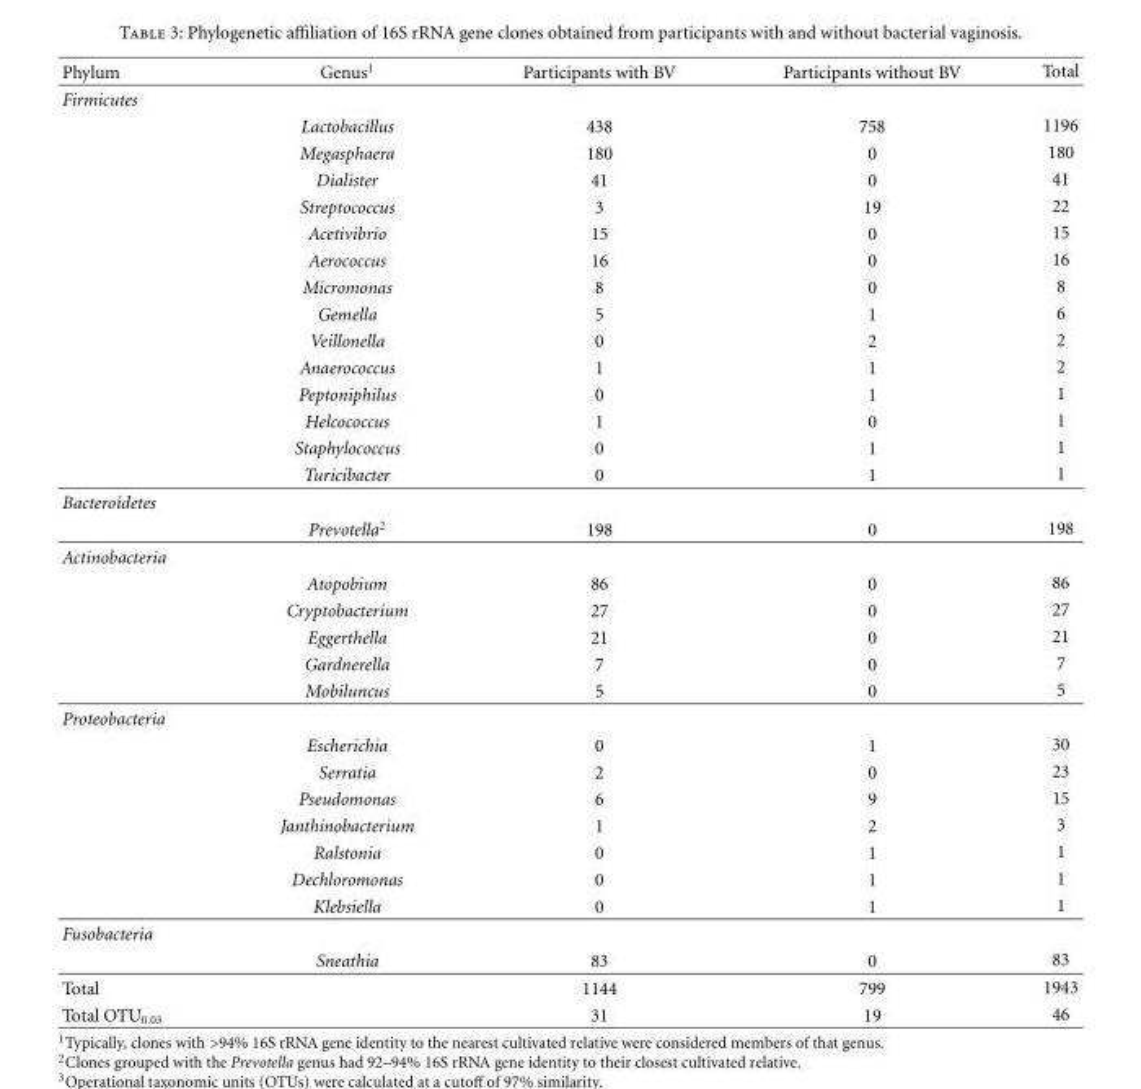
<table><thead><tr><td>Phylum</td><td>Genus<sup>1</sup></td><td>Participants with BV</td><td>Participants without BV</td><td>Total</td></tr></thead><tbody><tr><td colspan="5">Firmicutes</td></tr><tr><td></td><td>Lactobacillus</td><td>438</td><td>758</td><td>1196</td></tr><tr><td></td><td>Megasphaera</td><td>180</td><td>0</td><td>180</td></tr><tr><td></td><td>Dialister</td><td>41</td><td>0</td><td>41</td></tr><tr><td></td><td>Streptococcus</td><td>3</td><td>19</td><td>22</td></tr><tr><td></td><td>Acetivibrio</td><td>15</td><td>0</td><td>15</td></tr><tr><td></td><td>Aerococcus</td><td>16</td><td>0</td><td>16</td></tr><tr><td></td><td>Micromonas</td><td>8</td><td>0</td><td>8</td></tr><tr><td></td><td>Gemella</td><td>5</td><td>1</td><td>6</td></tr><tr><td></td><td>Veillonella</td><td>0</td><td>2</td><td>2</td></tr><tr><td></td><td>Anaerococcus</td><td>1</td><td>1</td><td>2</td></tr><tr><td></td><td>Peptoniphilus</td><td>0</td><td>1</td><td>1</td></tr><tr><td></td><td>Helcococcus</td><td>1</td><td>0</td><td>1</td></tr><tr><td></td><td>Staphylococcus</td><td>0</td><td>1</td><td>1</td></tr><tr><td></td><td>Turicibacter</td><td>0</td><td>1</td><td>1</td></tr><tr><td colspan="5">Bacteroidetes</td></tr><tr><td></td><td>Prevotella<sup>2</sup></td><td>198</td><td>0</td><td>198</td></tr><tr><td colspan="5">Actinobacteria</td></tr><tr><td></td><td>Atopobium</td><td>86</td><td>0</td><td>86</td></tr><tr><td></td><td>Cryptobacterium</td><td>27</td><td>0</td><td>27</td></tr><tr><td></td><td>Eggerthella</td><td>21</td><td>0</td><td>21</td></tr><tr><td></td><td>Gardnerella</td><td>7</td><td>0</td><td>7</td></tr><tr><td></td><td>Mobiluncus</td><td>5</td><td>0</td><td>5</td></tr><tr><td colspan="5">Proteobacteria</td></tr><tr><td></td><td>Escherichia</td><td>0</td><td>1</td><td>30</td></tr><tr><td></td><td>Serratia</td><td>2</td><td>0</td><td>23</td></tr><tr><td></td><td>Pseudomonas</td><td>6</td><td>9</td><td>15</td></tr><tr><td></td><td>Janthinobacterium</td><td>1</td><td>2</td><td>3</td></tr><tr><td></td><td>Ralstonia</td><td>0</td><td>1</td><td>1</td></tr><tr><td></td><td>Dechloromonas</td><td>0</td><td>1</td><td>1</td></tr><tr><td></td><td>Klebsiella</td><td>0</td><td>1</td><td>1</td></tr><tr><td colspan="5">Fusobacteria</td></tr><tr><td></td><td>Sneathia</td><td>83</td><td>0</td><td>83</td></tr><tr><td>Total</td><td></td><td>1144</td><td>799</td><td>1943</td></tr><tr><td>Total OTU<sub>0.03</sub></td><td></td><td>31</td><td>19</td><td>46</td></tr></tbody></table>